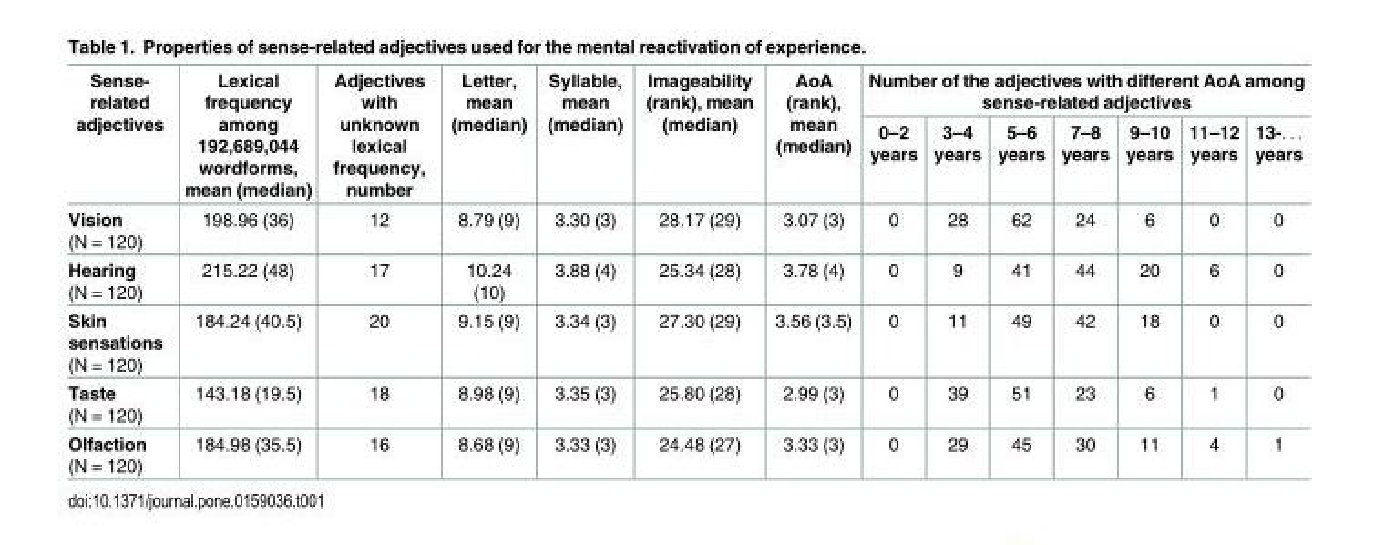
<table><thead><tr><td rowspan="2">Sense- related adjectives</td><td rowspan="2">Lexical frequency among 192,689,044 wordforms, mean (median)</td><td rowspan="2">Adjectives with unknown lexical frequency, number</td><td rowspan="2">Letter, mean (median)</td><td rowspan="2">Syllable, mean (median)</td><td rowspan="2">Imageability (rank), mean (median)</td><td rowspan="2">AoA (rank), mean (median)</td><td colspan="7">Number of the adjectives with different AoA among sense-related adjectives</td></tr><tr><td>0–2 years</td><td>3–4 years</td><td>5–6 years</td><td>7–8 years</td><td>9–10 years</td><td>11–12 years</td><td>13-. . . years</td></tr></thead><tbody><tr><td>Vision (N = 120)</td><td>198.96 (36)</td><td>12</td><td>8.79 (9)</td><td>3.30 (3)</td><td>28.17 (29)</td><td>3.07 (3)</td><td>0</td><td>28</td><td>62</td><td>24</td><td>6</td><td>0</td><td>0</td></tr><tr><td>Hearing (N = 120)</td><td>215.22 (48)</td><td>17</td><td>10.24 (10)</td><td>3.88 (4)</td><td>25.34 (28)</td><td>3.78 (4)</td><td>0</td><td>9</td><td>41</td><td>44</td><td>20</td><td>6</td><td>0</td></tr><tr><td>Skin sensations (N = 120)</td><td>184.24 (40.5)</td><td>20</td><td>9.15 (9)</td><td>3.34 (3)</td><td>27.30 (29)</td><td>3.56 (3.5)</td><td>0</td><td>11</td><td>49</td><td>42</td><td>18</td><td>0</td><td>0</td></tr><tr><td>Taste (N = 120)</td><td>143.18 (19.5)</td><td>18</td><td>8.98 (9)</td><td>3.35 (3)</td><td>25.80 (28)</td><td>2.99 (3)</td><td>0</td><td>39</td><td>51</td><td>23</td><td>6</td><td>1</td><td>0</td></tr><tr><td>Olfaction (N = 120)</td><td>184.98 (35.5)</td><td>16</td><td>8.68 (9)</td><td>3.33 (3)</td><td>24.48 (27)</td><td>3.33 (3)</td><td>0</td><td>29</td><td>45</td><td>30</td><td>11</td><td>4</td><td>1</td></tr></tbody></table>